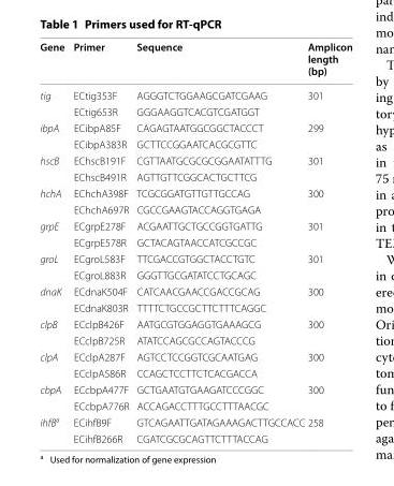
<table><thead><tr><td>Gene</td><td>Primer</td><td>Sequence</td><td>Amplicon length (bp)</td></tr></thead><tbody><tr><td rowspan="2">tig</td><td>ECtig353F</td><td>AGGGTCTGGAAGCGATCGAAG</td><td rowspan="2">301</td></tr><tr><td>ECtig653R</td><td>GGGAAGGTCACGTCGATGGT</td></tr><tr><td rowspan="2">ibpA</td><td>ECibpA85F</td><td>CAGAGTAATGGCGGCTACCCT</td><td rowspan="2">299</td></tr><tr><td>ECibpA383R</td><td>GCTTCCGGAATCACGCGTTC</td></tr><tr><td rowspan="2">hscB</td><td>EChscB191F</td><td>CGTTAATGCGCGCGGAATATTTG</td><td rowspan="2">301</td></tr><tr><td>EChscB491R</td><td>AGTTGTTCGGCACTGCTTCG</td></tr><tr><td rowspan="2">hchA</td><td>EChchA398F</td><td>TCGCGGATGTTGTTGCCAG</td><td rowspan="2">300</td></tr><tr><td>EChchA697R</td><td>CGCCGAAGTACCAGGTGAGA</td></tr><tr><td rowspan="2">grpE</td><td>ECgrpE278F</td><td>ACGAATTGCTGCCGGTGATTG</td><td rowspan="2">301</td></tr><tr><td>ECgrpE578R</td><td>GCTACAGTAACCATCGCCGC</td></tr><tr><td rowspan="2">groL</td><td>ECgroL583F</td><td>TTCGACCGTGGCTACCTGTC</td><td rowspan="2">301</td></tr><tr><td>ECgroL883R</td><td>GGGTTGCGATATCCTGCAGC</td></tr><tr><td rowspan="2">dnaK</td><td>ECdnaK504F</td><td>CATCAACGAACCGACCGCAG</td><td rowspan="2">300</td></tr><tr><td>ECdnaK803R</td><td>TTTTCTGCCGCTTCTTTCAGGC</td></tr><tr><td rowspan="2">clpB</td><td>ECclpB426F</td><td>AATGCGTGGAGGTGAAAGCG</td><td rowspan="2">300</td></tr><tr><td>ECclpB725R</td><td>ATATCCAGCGCCAGTACCCG</td></tr><tr><td rowspan="2">clpA</td><td>ECclpA287F</td><td>AGTCCTCCGGTCGCAATGAG</td><td rowspan="2">300</td></tr><tr><td>ECclpA586R</td><td>CCAGCTCCTTCTCACGACCA</td></tr><tr><td rowspan="2">cbpA</td><td>ECcbpA477F</td><td>GCTGAATGTGAAGATCCCGGC</td><td rowspan="2">300</td></tr><tr><td>ECcbpA776R</td><td>ACCAGACCTTTGCCTTTAACGC</td></tr><tr><td rowspan="2">ihfB<sup>a</sup></td><td>ECihfB9F</td><td>GTCAGAATTGATAGAAAGACTTGCCACC</td><td rowspan="2">258</td></tr><tr><td>ECihfB266R</td><td>CGATCGCGCAGTTCTTTACCAG</td></tr></tbody></table>